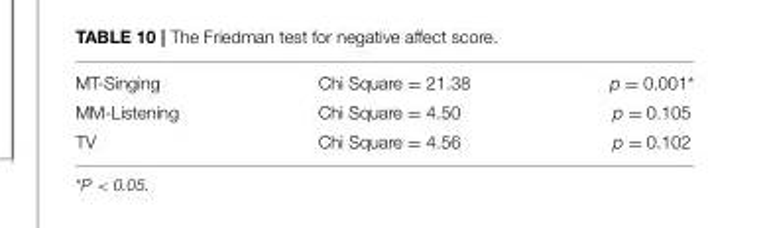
<table><tbody><tr><td>MT-Singing</td><td>Chi Square = 21.38</td><td>p = 0.001*</td></tr><tr><td>MM-Listening</td><td>Chi Square = 4.50</td><td>p = 0.105</td></tr><tr><td>TV</td><td>Chi Square = 4.56</td><td>p = 0.102</td></tr></tbody></table>